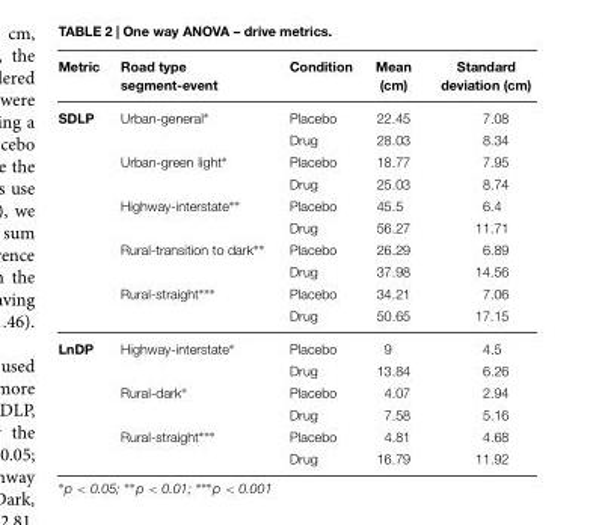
<table><thead><tr><td>Metric</td><td>Road type segment-event</td><td>Condition</td><td>Mean (cm)</td><td>Standard deviation (cm)</td></tr></thead><tbody><tr><td rowspan="10">SDLP</td><td>Urban-general∗</td><td>Placebo</td><td>22.45</td><td>7.08</td></tr><tr><td></td><td>Drug</td><td>28.03</td><td>8.34</td></tr><tr><td>Urban-green light∗</td><td>Placebo</td><td>18.77</td><td>7.95</td></tr><tr><td></td><td>Drug</td><td>25.03</td><td>8.74</td></tr><tr><td>Highway-interstate∗∗</td><td>Placebo</td><td>45.5</td><td>6.4</td></tr><tr><td></td><td>Drug</td><td>56.27</td><td>11.71</td></tr><tr><td>Rural-transition to dark∗∗</td><td>Placebo</td><td>26.29</td><td>6.89</td></tr><tr><td></td><td>Drug</td><td>37.98</td><td>14.56</td></tr><tr><td>Rural-straight∗∗∗</td><td>Placebo</td><td>34.21</td><td>7.06</td></tr><tr><td></td><td>Drug</td><td>50.65</td><td>17.15</td></tr><tr><td rowspan="6">LnDP</td><td>Highway-interstate∗</td><td>Placebo</td><td>9</td><td>4.5</td></tr><tr><td></td><td>Drug</td><td>13.84</td><td>6.26</td></tr><tr><td>Rural-dark∗</td><td>Placebo</td><td>4.07</td><td>2.94</td></tr><tr><td></td><td>Drug</td><td>7.58</td><td>5.16</td></tr><tr><td>Rural-straight∗∗∗</td><td>Placebo</td><td>4.81</td><td>4.68</td></tr><tr><td></td><td>Drug</td><td>16.79</td><td>11.92</td></tr></tbody></table>